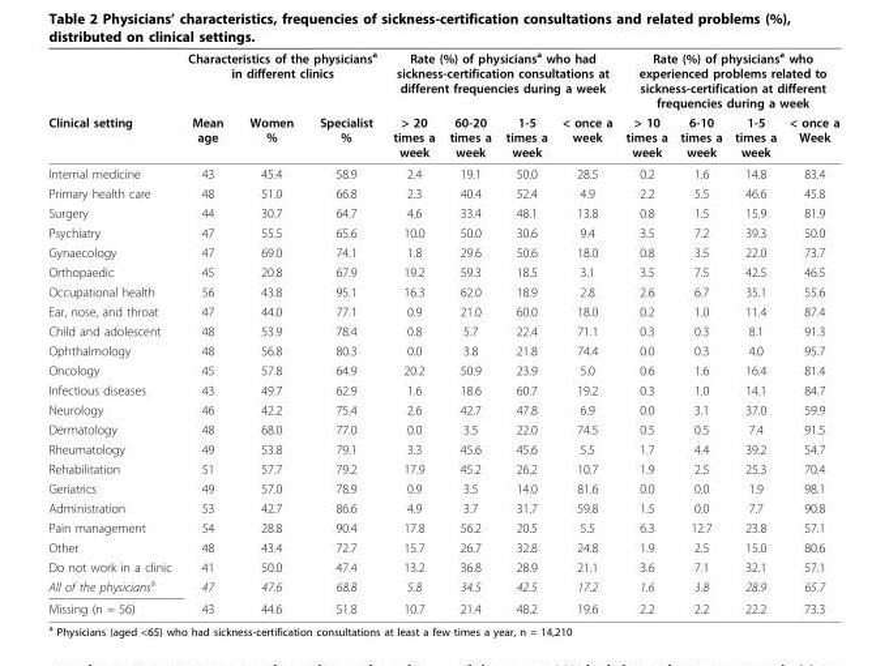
<table><thead><tr><td rowspan="2">Clinical setting</td><td colspan="3">Characteristics of the physicians<sup>a</sup> in different clinics</td><td colspan="4">Rate (%) of physicians<sup>a</sup> who had sickness-certification consultations at different frequencies during a week</td><td colspan="4">Rate (%) of physicians<sup>a</sup> who experienced problems related to sickness-certification at different frequencies during a week</td></tr><tr><td>Mean age</td><td>Women %</td><td>Specialist %</td><td>&gt; 20 times a week</td><td>60-20 times a week</td><td>1-5 times a week</td><td>&lt; once a week</td><td>&gt; 10 times a week</td><td>6-10 times a week</td><td>1-5 times a week</td><td>&lt; once a Week</td></tr></thead><tbody><tr><td>Internal medicine</td><td>43</td><td>45.4</td><td>58.9</td><td>2.4</td><td>19.1</td><td>50.0</td><td>28.5</td><td>0.2</td><td>1.6</td><td>14.8</td><td>83.4</td></tr><tr><td>Primary health care</td><td>48</td><td>51.0</td><td>66.8</td><td>2.3</td><td>40.4</td><td>52.4</td><td>4.9</td><td>2.2</td><td>5.5</td><td>46.6</td><td>45.8</td></tr><tr><td>Surgery</td><td>44</td><td>30.7</td><td>64.7</td><td>4.6</td><td>33.4</td><td>48.1</td><td>13.8</td><td>0.8</td><td>1.5</td><td>15.9</td><td>81.9</td></tr><tr><td>Psychiatry</td><td>47</td><td>55.5</td><td>65.6</td><td>10.0</td><td>50.0</td><td>30.6</td><td>9.4</td><td>3.5</td><td>7.2</td><td>39.3</td><td>50.0</td></tr><tr><td>Gynaecology</td><td>47</td><td>69.0</td><td>74.1</td><td>1.8</td><td>29.6</td><td>50.6</td><td>18.0</td><td>0.8</td><td>3.5</td><td>22.0</td><td>73.7</td></tr><tr><td>Orthopaedic</td><td>45</td><td>20.8</td><td>67.9</td><td>19.2</td><td>59.3</td><td>18.5</td><td>3.1</td><td>3.5</td><td>7.5</td><td>42.5</td><td>46.5</td></tr><tr><td>Occupational health</td><td>56</td><td>43.8</td><td>95.1</td><td>16.3</td><td>62.0</td><td>18.9</td><td>2.8</td><td>2.6</td><td>6.7</td><td>35.1</td><td>55.6</td></tr><tr><td>Ear, nose, and throat</td><td>47</td><td>44.0</td><td>77.1</td><td>0.9</td><td>21.0</td><td>60.0</td><td>18.0</td><td>0.2</td><td>1.0</td><td>11.4</td><td>87.4</td></tr><tr><td>Child and adolescent</td><td>48</td><td>53.9</td><td>78.4</td><td>0.8</td><td>5.7</td><td>22.4</td><td>71.1</td><td>0.3</td><td>0.3</td><td>8.1</td><td>91.3</td></tr><tr><td>Ophthalmology</td><td>48</td><td>56.8</td><td>80.3</td><td>0.0</td><td>3.8</td><td>21.8</td><td>74.4</td><td>0.0</td><td>0.3</td><td>4.0</td><td>95.7</td></tr><tr><td>Oncology</td><td>45</td><td>57.8</td><td>64.9</td><td>20.2</td><td>50.9</td><td>23.9</td><td>5.0</td><td>0.6</td><td>1.6</td><td>16.4</td><td>81.4</td></tr><tr><td>Infectious diseases</td><td>43</td><td>49.7</td><td>62.9</td><td>1.6</td><td>18.6</td><td>60.7</td><td>19.2</td><td>0.3</td><td>1.0</td><td>14.1</td><td>84.7</td></tr><tr><td>Neurology</td><td>46</td><td>42.2</td><td>75.4</td><td>2.6</td><td>42.7</td><td>47.8</td><td>6.9</td><td>0.0</td><td>3.1</td><td>37.0</td><td>59.9</td></tr><tr><td>Dermatology</td><td>48</td><td>68.0</td><td>77.0</td><td>0.0</td><td>3.5</td><td>22.0</td><td>74.5</td><td>0.5</td><td>0.5</td><td>7.4</td><td>91.5</td></tr><tr><td>Rheumatology</td><td>49</td><td>53.8</td><td>79.1</td><td>3.3</td><td>45.6</td><td>45.6</td><td>5.5</td><td>1.7</td><td>4.4</td><td>39.2</td><td>54.7</td></tr><tr><td>Rehabilitation</td><td>51</td><td>57.7</td><td>79.2</td><td>17.9</td><td>45.2</td><td>26.2</td><td>10.7</td><td>1.9</td><td>2.5</td><td>25.3</td><td>70.4</td></tr><tr><td>Geriatrics</td><td>49</td><td>57.0</td><td>78.9</td><td>0.9</td><td>3.5</td><td>14.0</td><td>81.6</td><td>0.0</td><td>0.0</td><td>1.9</td><td>98.1</td></tr><tr><td>Administration</td><td>53</td><td>42.7</td><td>86.6</td><td>4.9</td><td>3.7</td><td>31.7</td><td>59.8</td><td>1.5</td><td>0.0</td><td>7.7</td><td>90.8</td></tr><tr><td>Pain management</td><td>54</td><td>28.8</td><td>90.4</td><td>17.8</td><td>56.2</td><td>20.5</td><td>5.5</td><td>6.3</td><td>12.7</td><td>23.8</td><td>57.1</td></tr><tr><td>Other</td><td>48</td><td>43.4</td><td>72.7</td><td>15.7</td><td>26.7</td><td>32.8</td><td>24.8</td><td>1.9</td><td>2.5</td><td>15.0</td><td>80.6</td></tr><tr><td>Do not work in a clinic</td><td>41</td><td>50.0</td><td>47.4</td><td>13.2</td><td>36.8</td><td>28.9</td><td>21.1</td><td>3.6</td><td>7.1</td><td>32.1</td><td>57.1</td></tr><tr><td>All of the physicians<sup>a</sup></td><td>47</td><td>47.6</td><td>68.8</td><td>5.8</td><td>34.5</td><td>42.5</td><td>17.2</td><td>1.6</td><td>3.8</td><td>28.9</td><td>65.7</td></tr><tr><td>Missing (n = 56)</td><td>43</td><td>44.6</td><td>51.8</td><td>10.7</td><td>21.4</td><td>48.2</td><td>19.6</td><td>2.2</td><td>2.2</td><td>22.2</td><td>73.3</td></tr></tbody></table>